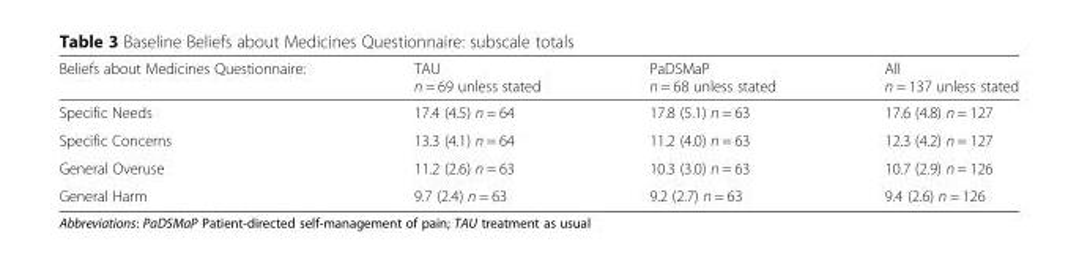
<table><thead><tr><td>Beliefs about Medicines Questionnaire:</td><td>TAU n = 69 unless stated</td><td>PaDSMaP n = 68 unless stated</td><td>All n = 137 unless stated</td></tr></thead><tbody><tr><td>Specific Needs</td><td>17.4 (4.5) n = 64</td><td>17.8 (5.1) n = 63</td><td>17.6 (4.8) n = 127</td></tr><tr><td>Specific Concerns</td><td>13.3 (4.1) n = 64</td><td>11.2 (4.0) n = 63</td><td>12.3 (4.2) n = 127</td></tr><tr><td>General Overuse</td><td>11.2 (2.6) n = 63</td><td>10.3 (3.0) n = 63</td><td>10.7 (2.9) n = 126</td></tr><tr><td>General Harm</td><td>9.7 (2.4) n = 63</td><td>9.2 (2.7) n = 63</td><td>9.4 (2.6) n = 126</td></tr></tbody></table>